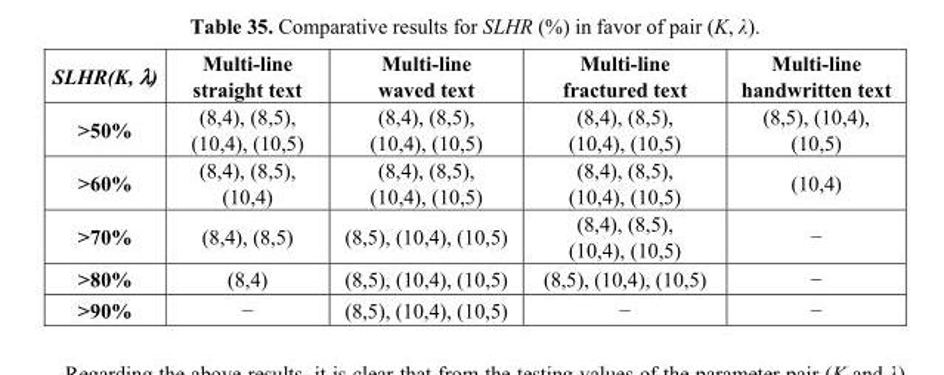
<table><thead><tr><td>SLHR(K, λ)</td><td>Multi-line straight text</td><td>Multi-line waved text</td><td>Multi-line fractured text</td><td>Multi-line handwritten text</td></tr></thead><tbody><tr><td>&gt;50%</td><td>(8,4), (8,5), (10,4), (10,5)</td><td>(8,4), (8,5), (10,4), (10,5)</td><td>(8,4), (8,5), (10,4), (10,5)</td><td>(8,5), (10,4), (10,5)</td></tr><tr><td>&gt;60%</td><td>(8,4), (8,5), (10,4)</td><td>(8,4), (8,5), (10,4), (10,5)</td><td>(8,4), (8,5), (10,4), (10,5)</td><td>(10,4)</td></tr><tr><td>&gt;70%</td><td>(8,4), (8,5)</td><td>(8,5), (10,4), (10,5)</td><td>(8,4), (8,5), (10,4), (10,5)</td><td>−</td></tr><tr><td>&gt;80%</td><td>(8,4)</td><td>(8,5), (10,4), (10,5)</td><td>(8,5), (10,4), (10,5)</td><td>−</td></tr><tr><td>&gt;90%</td><td>−</td><td>(8,5), (10,4), (10,5)</td><td>−</td><td>−</td></tr></tbody></table>